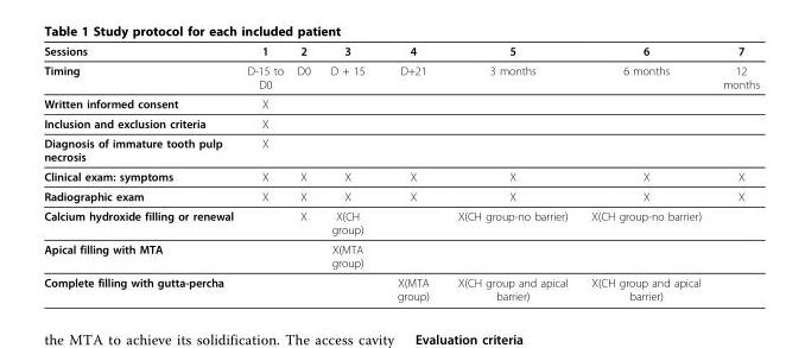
<table><thead><tr><td>Sessions</td><td>1</td><td>2</td><td>3</td><td>4</td><td>5</td><td>6</td><td>7</td></tr></thead><tbody><tr><td>Timing</td><td>D-15 to D0</td><td>D0</td><td>D + 15</td><td>D+21</td><td>3 months</td><td>6 months</td><td>12 months</td></tr><tr><td>Written informed consent</td><td>X</td><td></td><td></td><td></td><td></td><td></td><td></td></tr><tr><td>Inclusion and exclusion criteria</td><td>X</td><td></td><td></td><td></td><td></td><td></td><td></td></tr><tr><td>Diagnosis of immature tooth pulp necrosis</td><td>X</td><td></td><td></td><td></td><td></td><td></td><td></td></tr><tr><td>Clinical exam: symptoms</td><td>X</td><td>X</td><td>X</td><td>X</td><td>X</td><td>X</td><td>X</td></tr><tr><td>Radiographic exam</td><td>X</td><td>X</td><td>X</td><td>X</td><td>X</td><td>X</td><td>X</td></tr><tr><td>Calcium hydroxide filling or renewal</td><td></td><td>X</td><td>X(CH group)</td><td></td><td>X(CH group-no barrier)</td><td>X(CH group-no barrier)</td><td></td></tr><tr><td>Apical filling with MTA</td><td></td><td></td><td>X(MTA group)</td><td></td><td></td><td></td><td></td></tr><tr><td>Complete filling with gutta-percha</td><td></td><td></td><td></td><td>X(MTA group)</td><td>X(CH group and apical barrier)</td><td>X(CH group and apical barrier)</td><td></td></tr></tbody></table>